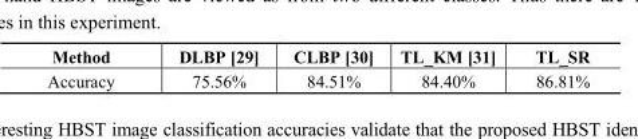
<table><thead><tr><td>Method</td><td>DLBP [29]</td><td>CLBP [30]</td><td>TL_KM [31]</td><td>TL_SR</td></tr></thead><tbody><tr><td>Accuracy</td><td>75.56%</td><td>84.51%</td><td>84.40%</td><td>86.81%</td></tr></tbody></table>